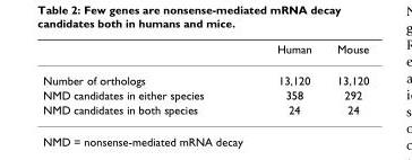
<table><thead><tr><td></td><td>Human</td><td>Mouse</td></tr></thead><tbody><tr><td>Number of orthologs</td><td>13,120</td><td>13,120</td></tr><tr><td>NMD candidates in either species</td><td>358</td><td>292</td></tr><tr><td>NMD candidates in both species</td><td>24</td><td>24</td></tr></tbody></table>